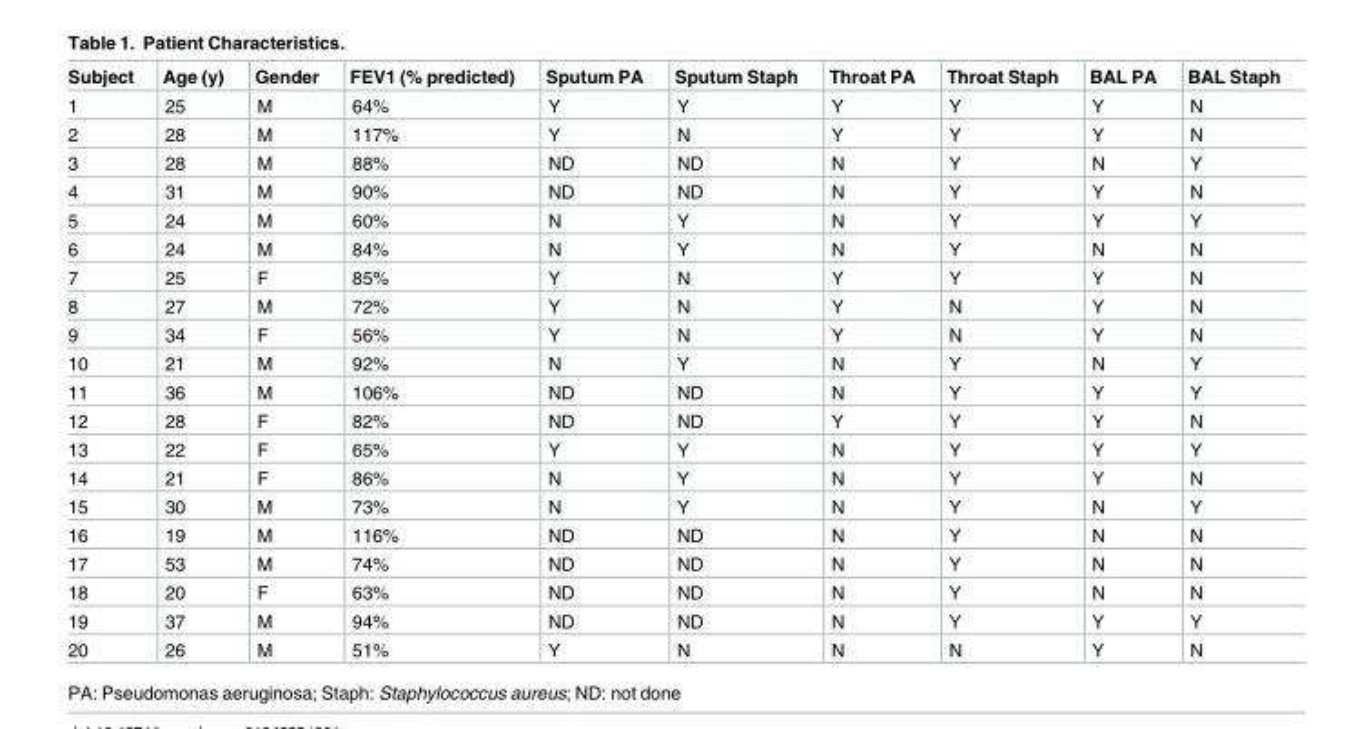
<table><thead><tr><td>Subject</td><td>Age (y)</td><td>Gender</td><td>FEV1 (% predicted)</td><td>Sputum PA</td><td>Sputum Staph</td><td>Throat PA</td><td>Throat Staph</td><td>BAL PA</td><td>BAL Staph</td></tr></thead><tbody><tr><td>1</td><td>25</td><td>M</td><td>64%</td><td>Y</td><td>Y</td><td>Y</td><td>Y</td><td>Y</td><td>N</td></tr><tr><td>2</td><td>28</td><td>M</td><td>117%</td><td>Y</td><td>N</td><td>Y</td><td>Y</td><td>Y</td><td>N</td></tr><tr><td>3</td><td>28</td><td>M</td><td>88%</td><td>ND</td><td>ND</td><td>N</td><td>Y</td><td>N</td><td>Y</td></tr><tr><td>4</td><td>31</td><td>M</td><td>90%</td><td>ND</td><td>ND</td><td>N</td><td>Y</td><td>Y</td><td>N</td></tr><tr><td>5</td><td>24</td><td>M</td><td>60%</td><td>N</td><td>Y</td><td>N</td><td>Y</td><td>Y</td><td>Y</td></tr><tr><td>6</td><td>24</td><td>M</td><td>84%</td><td>N</td><td>Y</td><td>N</td><td>Y</td><td>N</td><td>N</td></tr><tr><td>7</td><td>25</td><td>F</td><td>85%</td><td>Y</td><td>N</td><td>Y</td><td>Y</td><td>Y</td><td>N</td></tr><tr><td>8</td><td>27</td><td>M</td><td>72%</td><td>Y</td><td>N</td><td>Y</td><td>N</td><td>Y</td><td>N</td></tr><tr><td>9</td><td>34</td><td>F</td><td>56%</td><td>Y</td><td>N</td><td>Y</td><td>N</td><td>Y</td><td>N</td></tr><tr><td>10</td><td>21</td><td>M</td><td>92%</td><td>N</td><td>Y</td><td>N</td><td>Y</td><td>N</td><td>Y</td></tr><tr><td>11</td><td>36</td><td>M</td><td>106%</td><td>ND</td><td>ND</td><td>N</td><td>Y</td><td>Y</td><td>Y</td></tr><tr><td>12</td><td>28</td><td>F</td><td>82%</td><td>ND</td><td>ND</td><td>Y</td><td>Y</td><td>Y</td><td>N</td></tr><tr><td>13</td><td>22</td><td>F</td><td>65%</td><td>Y</td><td>Y</td><td>N</td><td>Y</td><td>Y</td><td>Y</td></tr><tr><td>14</td><td>21</td><td>F</td><td>86%</td><td>N</td><td>Y</td><td>N</td><td>Y</td><td>Y</td><td>N</td></tr><tr><td>15</td><td>30</td><td>M</td><td>73%</td><td>N</td><td>Y</td><td>N</td><td>Y</td><td>N</td><td>Y</td></tr><tr><td>16</td><td>19</td><td>M</td><td>116%</td><td>ND</td><td>ND</td><td>N</td><td>Y</td><td>N</td><td>N</td></tr><tr><td>17</td><td>53</td><td>M</td><td>74%</td><td>ND</td><td>ND</td><td>N</td><td>Y</td><td>N</td><td>N</td></tr><tr><td>18</td><td>20</td><td>F</td><td>63%</td><td>ND</td><td>ND</td><td>N</td><td>Y</td><td>N</td><td>N</td></tr><tr><td>19</td><td>37</td><td>M</td><td>94%</td><td>ND</td><td>ND</td><td>N</td><td>Y</td><td>Y</td><td>Y</td></tr><tr><td>20</td><td>26</td><td>M</td><td>51%</td><td>Y</td><td>N</td><td>N</td><td>N</td><td>Y</td><td>N</td></tr></tbody></table>